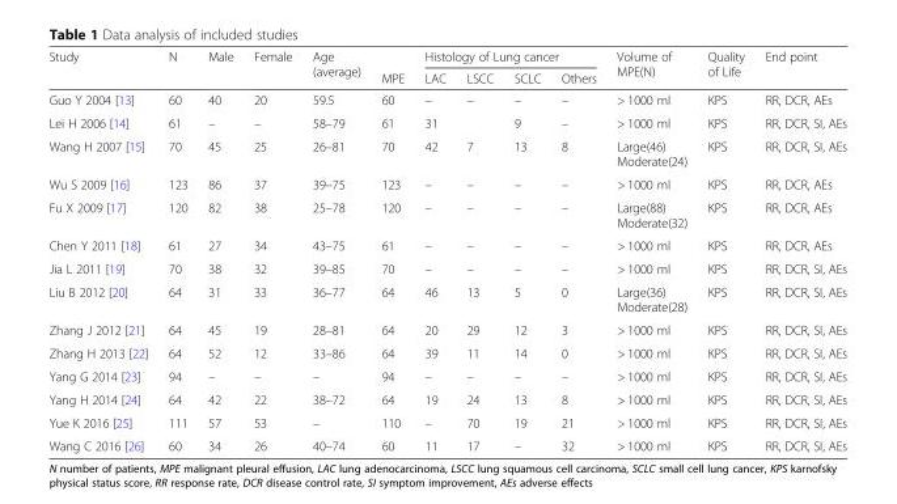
<table><thead><tr><td rowspan="2">Study</td><td rowspan="2">N</td><td rowspan="2">Male</td><td rowspan="2">Female</td><td rowspan="2">Age (average)</td><td rowspan="2">MPE</td><td colspan="4">Histology of Lung cancer</td><td rowspan="2">Volume of MPE(N)</td><td rowspan="2">Quality of Life</td><td rowspan="2">End point</td></tr><tr><td>LAC</td><td>LSCC</td><td>SCLC</td><td>Others</td></tr></thead><tbody><tr><td>Guo Y 2004 [13]</td><td>60</td><td>40</td><td>20</td><td>59.5</td><td>60</td><td>–</td><td>–</td><td>–</td><td>–</td><td>&gt; 1000 ml</td><td>KPS</td><td>RR, DCR, AEs</td></tr><tr><td>Lei H 2006 [14]</td><td>61</td><td>–</td><td>–</td><td>58–79</td><td>61</td><td colspan="2">31</td><td>9</td><td>–</td><td>&gt; 1000 ml</td><td>KPS</td><td>RR, DCR, SI, AEs</td></tr><tr><td>Wang H 2007 [15]</td><td>70</td><td>45</td><td>25</td><td>26–81</td><td>70</td><td>42</td><td>7</td><td>13</td><td>8</td><td>Large(46) Moderate(24)</td><td>KPS</td><td>RR, DCR, SI, AEs</td></tr><tr><td>Wu S 2009 [16]</td><td>123</td><td>86</td><td>37</td><td>39–75</td><td>123</td><td>–</td><td>–</td><td>–</td><td>–</td><td>&gt; 1000 ml</td><td>KPS</td><td>RR, DCR, AEs</td></tr><tr><td>Fu X 2009 [17]</td><td>120</td><td>82</td><td>38</td><td>25–78</td><td>120</td><td>–</td><td>–</td><td>–</td><td>–</td><td>Large(88) Moderate(32)</td><td>KPS</td><td>RR, DCR, AEs</td></tr><tr><td>Chen Y 2011 [18]</td><td>61</td><td>27</td><td>34</td><td>43–75</td><td>61</td><td>–</td><td>–</td><td>–</td><td>–</td><td>&gt; 1000 ml</td><td>KPS</td><td>RR, DCR, AEs</td></tr><tr><td>Jia L 2011 [19]</td><td>70</td><td>38</td><td>32</td><td>39–85</td><td>70</td><td>–</td><td>–</td><td>–</td><td>–</td><td>&gt; 1000 ml</td><td>KPS</td><td>RR, DCR, SI, AEs</td></tr><tr><td>Liu B 2012 [20]</td><td>64</td><td>31</td><td>33</td><td>36–77</td><td>64</td><td>46</td><td>13</td><td>5</td><td>0</td><td>Large(36) Moderate(28)</td><td>KPS</td><td>RR, DCR, SI, AEs</td></tr><tr><td>Zhang J 2012 [21]</td><td>64</td><td>45</td><td>19</td><td>28–81</td><td>64</td><td>20</td><td>29</td><td>12</td><td>3</td><td>&gt; 1000 ml</td><td>KPS</td><td>RR, DCR, SI, AEs</td></tr><tr><td>Zhang H 2013 [22]</td><td>64</td><td>52</td><td>12</td><td>33–86</td><td>64</td><td>39</td><td>11</td><td>14</td><td>0</td><td>&gt; 1000 ml</td><td>KPS</td><td>RR, DCR, SI, AEs</td></tr><tr><td>Yang G 2014 [23]</td><td>94</td><td>–</td><td>–</td><td>–</td><td>94</td><td>–</td><td>–</td><td>–</td><td>–</td><td>&gt; 1000 ml</td><td>KPS</td><td>RR, DCR, SI, AEs</td></tr><tr><td>Yang H 2014 [24]</td><td>64</td><td>42</td><td>22</td><td>38–72</td><td>64</td><td>19</td><td>24</td><td>13</td><td>8</td><td>&gt; 1000 ml</td><td>KPS</td><td>RR, DCR, SI, AEs</td></tr><tr><td>Yue K 2016 [25]</td><td>111</td><td>57</td><td>53</td><td>–</td><td>110</td><td>–</td><td>70</td><td>19</td><td>21</td><td>&gt; 1000 ml</td><td>KPS</td><td>RR, DCR, SI, AEs</td></tr><tr><td>Wang C 2016 [26]</td><td>60</td><td>34</td><td>26</td><td>40–74</td><td>60</td><td>11</td><td>17</td><td>–</td><td>32</td><td>&gt; 1000 ml</td><td>KPS</td><td>RR, DCR, SI, AEs</td></tr></tbody></table>